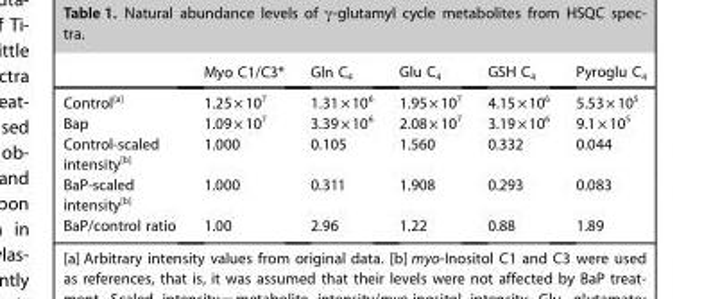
<table><thead><tr><td></td><td>Myo C1/C3*</td><td>Gln C<sub>4</sub></td><td>Glu C<sub>4</sub></td><td>GSH C<sub>4</sub></td><td>Pyroglu C<sub>4</sub></td></tr></thead><tbody><tr><td>Control<sup>[a]</sup></td><td>1.25×10<sup>7</sup></td><td>1.31×10<sup>6</sup></td><td>1.95×10<sup>7</sup></td><td>4.15×10<sup>6</sup></td><td>5.53×10<sup>5</sup></td></tr><tr><td>Bap</td><td>1.09×10<sup>7</sup></td><td>3.39×10<sup>6</sup></td><td>2.08×10<sup>7</sup></td><td>3.19×10<sup>6</sup></td><td>9.1×10<sup>5</sup></td></tr><tr><td>Control-scaled intensity<sup>[b]</sup></td><td>1.000</td><td>0.105</td><td>1.560</td><td>0.332</td><td>0.044</td></tr><tr><td>BaP-scaled intensity<sup>[b]</sup></td><td>1.000</td><td>0.311</td><td>1.908</td><td>0.293</td><td>0.083</td></tr><tr><td>BaP/control ratio</td><td>1.00</td><td>2.96</td><td>1.22</td><td>0.88</td><td>1.89</td></tr></tbody></table>